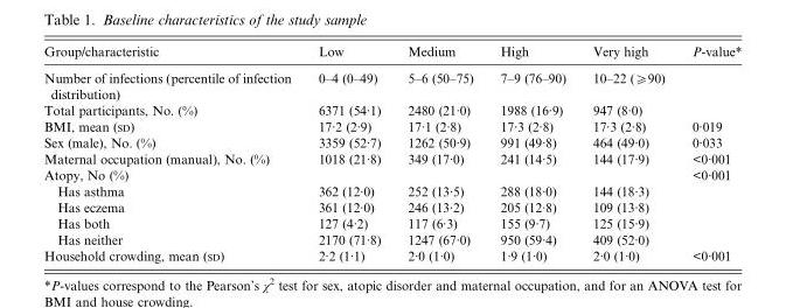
<table><thead><tr><td>Group/characteristic</td><td>Low</td><td>Medium</td><td>High</td><td>Very high</td><td>P-value*</td></tr></thead><tbody><tr><td>Number of infections (percentile of infection distribution)</td><td>0–4 (0–49)</td><td>5–6 (50–75)</td><td>7–9 (76–90)</td><td>10–22 (⩾90)</td><td></td></tr><tr><td>Total participants, No. (%)</td><td>6371 (54·1)</td><td>2480 (21·0)</td><td>1988 (16·9)</td><td>947 (8·0)</td><td></td></tr><tr><td>BMI, mean (SD)</td><td>17·2 (2·9)</td><td>17·1 (2·8)</td><td>17·3 (2·8)</td><td>17·3 (2·8)</td><td>0·019</td></tr><tr><td>Sex (male), No. (%)</td><td>3359 (52·7)</td><td>1262 (50·9)</td><td>991 (49·8)</td><td>464 (49·0)</td><td>0·033</td></tr><tr><td>Maternal occupation (manual), No. (%)</td><td>1018 (21·8)</td><td>349 (17·0)</td><td>241 (14·5)</td><td>144 (17·9)</td><td>&lt;0·001</td></tr><tr><td>Atopy, No (%)</td><td></td><td></td><td></td><td></td><td>&lt;0·001</td></tr><tr><td>Has asthma</td><td>362 (12·0)</td><td>252 (13·5)</td><td>288 (18·0)</td><td>144 (18·3)</td><td></td></tr><tr><td>Has eczema</td><td>361 (12·0)</td><td>246 (13·2)</td><td>205 (12·8)</td><td>109 (13·8)</td><td></td></tr><tr><td>Has both</td><td>127 (4·2)</td><td>117 (6·3)</td><td>155 (9·7)</td><td>125 (15·9)</td><td></td></tr><tr><td>Has neither</td><td>2170 (71·8)</td><td>1247 (67·0)</td><td>950 (59·4)</td><td>409 (52·0)</td><td></td></tr><tr><td>Household crowding, mean (SD)</td><td>2·2 (1·1)</td><td>2·0 (1·0)</td><td>1·9 (1·0)</td><td>2·0 (1·0)</td><td>&lt;0·001</td></tr></tbody></table>